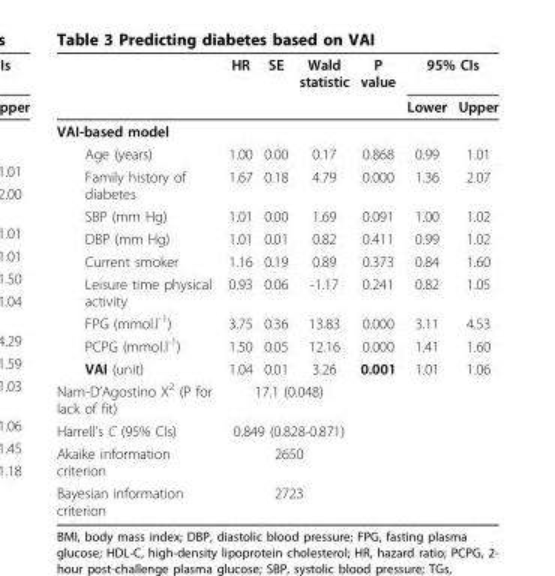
<table><thead><tr><td rowspan="2"></td><td rowspan="2">HR</td><td rowspan="2">SE</td><td rowspan="2">Wald statistic</td><td rowspan="2">P value</td><td colspan="2">95% CIs</td></tr><tr><td>Lower</td><td>Upper</td></tr></thead><tbody><tr><td colspan="7">VAI-based model</td></tr><tr><td>Age (years)</td><td>1.00</td><td>0.00</td><td>0.17</td><td>0.868</td><td>0.99</td><td>1.01</td></tr><tr><td>Family history of diabetes</td><td>1.67</td><td>0.18</td><td>4.79</td><td>0.000</td><td>1.36</td><td>2.07</td></tr><tr><td>SBP (mm Hg)</td><td>1.01</td><td>0.00</td><td>1.69</td><td>0.091</td><td>1.00</td><td>1.02</td></tr><tr><td>DBP (mm Hg)</td><td>1.01</td><td>0.01</td><td>0.82</td><td>0.411</td><td>0.99</td><td>1.02</td></tr><tr><td>Current smoker</td><td>1.16</td><td>0.19</td><td>0.89</td><td>0.373</td><td>0.84</td><td>1.60</td></tr><tr><td>Leisure time physical activity</td><td>0.93</td><td>0.06</td><td>-1.17</td><td>0.241</td><td>0.82</td><td>1.05</td></tr><tr><td>FPG (mmol.l<sup>-1</sup>)</td><td>3.75</td><td>0.36</td><td>13.83</td><td>0.000</td><td>3.11</td><td>4.53</td></tr><tr><td>PCPG (mmol.l<sup>-1</sup>)</td><td>1.50</td><td>0.05</td><td>12.16</td><td>0.000</td><td>1.41</td><td>1.60</td></tr><tr><td>VAI (unit)</td><td>1.04</td><td>0.01</td><td>3.26</td><td>0.001</td><td>1.01</td><td>1.06</td></tr><tr><td>Nam-D’Agostino X<sup>2</sup> (P for lack of fit)</td><td colspan="3">17.1 (0.048)</td><td></td><td></td><td></td></tr><tr><td>Harrell’s C (95% CIs)</td><td colspan="3">0.849 (0.828-0.871)</td><td></td><td></td><td></td></tr><tr><td>Akaike information criterion</td><td colspan="3">2650</td><td></td><td></td><td></td></tr><tr><td>Bayesian information criterion</td><td colspan="3">2723</td><td></td><td></td><td></td></tr></tbody></table>